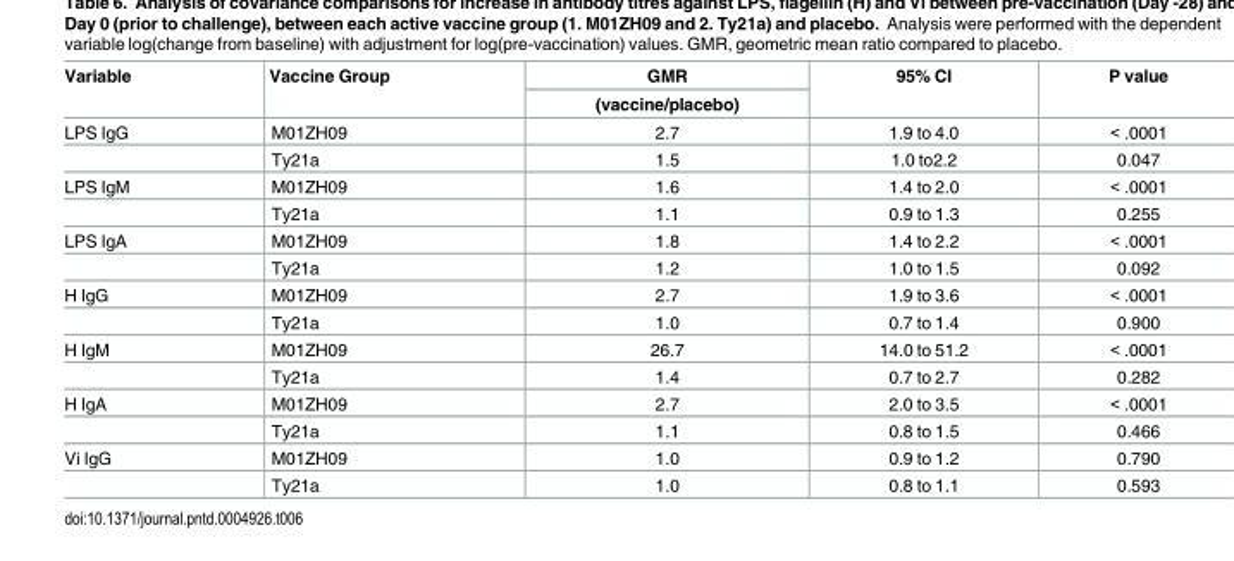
<table><thead><tr><td rowspan="2">Variable</td><td rowspan="2">Vaccine Group</td><td rowspan="2">GMR (vaccine/placebo)</td><td rowspan="2">95% CI</td><td rowspan="2">P value</td></tr><tr></tr></thead><tbody><tr><td rowspan="2">LPS IgG</td><td>M01ZH09</td><td>2.7</td><td>1.9 to 4.0</td><td>&lt; .0001</td></tr><tr><td>Ty21a</td><td>1.5</td><td>1.0 to2.2</td><td>0.047</td></tr><tr><td rowspan="2">LPS IgM</td><td>M01ZH09</td><td>1.6</td><td>1.4 to 2.0</td><td>&lt; .0001</td></tr><tr><td>Ty21a</td><td>1.1</td><td>0.9 to 1.3</td><td>0.255</td></tr><tr><td rowspan="2">LPS IgA</td><td>M01ZH09</td><td>1.8</td><td>1.4 to 2.2</td><td>&lt; .0001</td></tr><tr><td>Ty21a</td><td>1.2</td><td>1.0 to 1.5</td><td>0.092</td></tr><tr><td rowspan="2">H IgG</td><td>M01ZH09</td><td>2.7</td><td>1.9 to 3.6</td><td>&lt; .0001</td></tr><tr><td>Ty21a</td><td>1.0</td><td>0.7 to 1.4</td><td>0.900</td></tr><tr><td rowspan="2">H IgM</td><td>M01ZH09</td><td>26.7</td><td>14.0 to 51.2</td><td>&lt; .0001</td></tr><tr><td>Ty21a</td><td>1.4</td><td>0.7 to 2.7</td><td>0.282</td></tr><tr><td rowspan="2">H IgA</td><td>M01ZH09</td><td>2.7</td><td>2.0 to 3.5</td><td>&lt; .0001</td></tr><tr><td>Ty21a</td><td>1.1</td><td>0.8 to 1.5</td><td>0.466</td></tr><tr><td rowspan="2">Vi IgG</td><td>M01ZH09</td><td>1.0</td><td>0.9 to 1.2</td><td>0.790</td></tr><tr><td>Ty21a</td><td>1.0</td><td>0.8 to 1.1</td><td>0.593</td></tr></tbody></table>